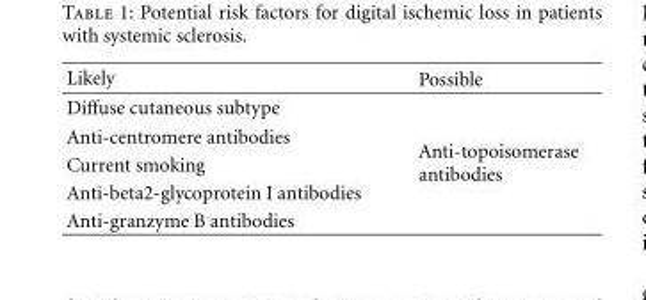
<table><thead><tr><td>Likely</td><td>Possible</td></tr></thead><tbody><tr><td>Diffuse cutaneous subtype</td><td rowspan="5">Anti-topoisomerase antibodies</td></tr><tr><td>Anti-centromere antibodies</td></tr><tr><td>Current smoking</td></tr><tr><td>Anti-beta2-glycoprotein I antibodies</td></tr><tr><td>Anti-granzyme B antibodies</td></tr></tbody></table>